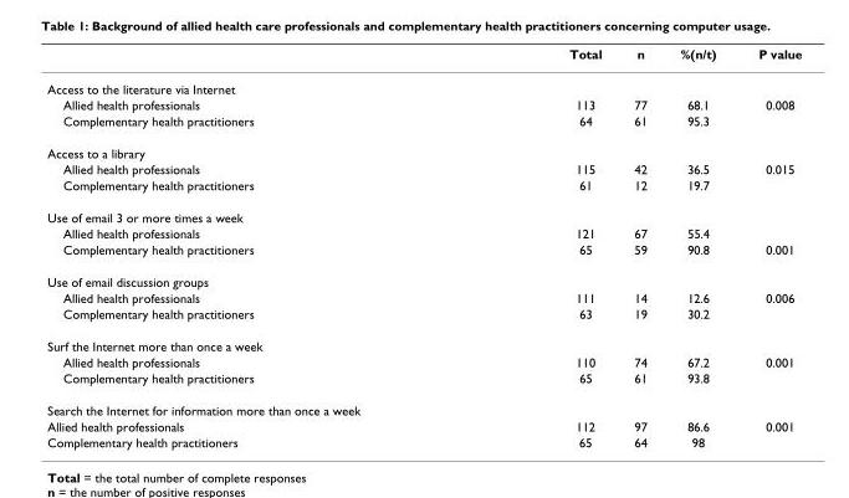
<table><thead><tr><td></td><td>Total</td><td>n</td><td>%(n/t)</td><td>P value</td></tr></thead><tbody><tr><td colspan="5">Access to the literature via Internet</td></tr><tr><td>Allied health professionals</td><td>113</td><td>77</td><td>68.1</td><td>0.008</td></tr><tr><td>Complementary health practitioners</td><td>64</td><td>61</td><td>95.3</td><td></td></tr><tr><td colspan="5">Access to a library</td></tr><tr><td>Allied health professionals</td><td>115</td><td>42</td><td>36.5</td><td>0.015</td></tr><tr><td>Complementary health practitioners</td><td>61</td><td>12</td><td>19.7</td><td></td></tr><tr><td colspan="5">Use of email 3 or more times a week</td></tr><tr><td>Allied health professionals</td><td>121</td><td>67</td><td>55.4</td><td></td></tr><tr><td>Complementary health practitioners</td><td>65</td><td>59</td><td>90.8</td><td>0.001</td></tr><tr><td colspan="5">Use of email discussion groups</td></tr><tr><td>Allied health professionals</td><td>111</td><td>14</td><td>12.6</td><td>0.006</td></tr><tr><td>Complementary health practitioners</td><td>63</td><td>19</td><td>30.2</td><td></td></tr><tr><td colspan="5">Surf the Internet more than once a week</td></tr><tr><td>Allied health professionals</td><td>110</td><td>74</td><td>67.2</td><td>0.001</td></tr><tr><td>Complementary health practitioners</td><td>65</td><td>61</td><td>93.8</td><td></td></tr><tr><td colspan="5">Search the Internet for information more than once a week</td></tr><tr><td>Allied health professionals</td><td>112</td><td>97</td><td>86.6</td><td>0.001</td></tr><tr><td>Complementary health practitioners</td><td>65</td><td>64</td><td>98</td><td></td></tr></tbody></table>